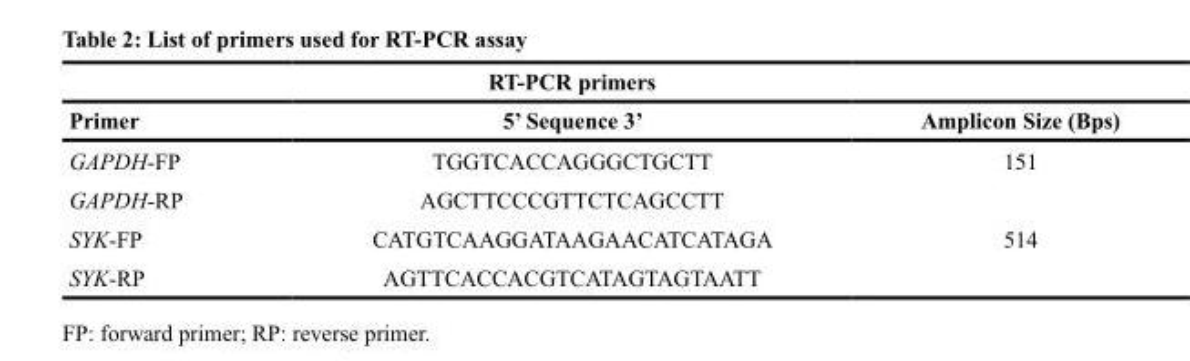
<table><thead><tr><td colspan="3">RT-PCR primers</td></tr><tr><td>Primer</td><td>5’ Sequence 3’</td><td>Amplicon Size (Bps)</td></tr></thead><tbody><tr><td>GAPDH-FP</td><td>TGGTCACCAGGGCTGCTT</td><td>151</td></tr><tr><td>GAPDH-RP</td><td>AGCTTCCCGTTCTCAGCCTT</td><td></td></tr><tr><td>SYK-FP</td><td>CATGTCAAGGATAAGAACATCATAGA</td><td>514</td></tr><tr><td>SYK-RP</td><td>AGTTCACCACGTCATAGTAGTAATT</td><td></td></tr></tbody></table>